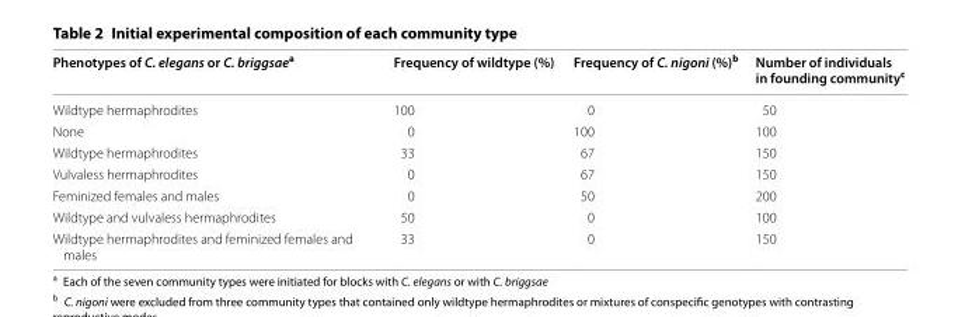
<table><thead><tr><td>Phenotypes of C. elegans or C. briggsae<sup>a</sup></td><td>Frequency of wildtype (%)</td><td>Frequency of C. nigoni (%)<sup>b</sup></td><td>Number of individuals in founding community<sup>c</sup></td></tr></thead><tbody><tr><td>Wildtype hermaphrodites</td><td>100</td><td>0</td><td>50</td></tr><tr><td>None</td><td>0</td><td>100</td><td>100</td></tr><tr><td>Wildtype hermaphrodites</td><td>33</td><td>67</td><td>150</td></tr><tr><td>Vulvaless hermaphrodites</td><td>0</td><td>67</td><td>150</td></tr><tr><td>Feminized females and males</td><td>0</td><td>50</td><td>200</td></tr><tr><td>Wildtype and vulvaless hermaphrodites</td><td>50</td><td>0</td><td>100</td></tr><tr><td>Wildtype hermaphrodites and feminized females and males</td><td>33</td><td>0</td><td>150</td></tr></tbody></table>